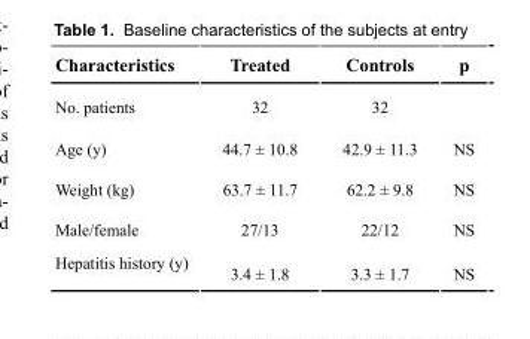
<table><thead><tr><td>Characteristics</td><td>Treated</td><td>Controls</td><td>p</td></tr></thead><tbody><tr><td>No. patients</td><td>32</td><td>32</td><td></td></tr><tr><td>Age (y)</td><td>44.7 ± 10.8</td><td>42.9 ± 11.3</td><td>NS</td></tr><tr><td>Weight (kg)</td><td>63.7 ± 11.7</td><td>62.2 ± 9.8</td><td>NS</td></tr><tr><td>Male/female</td><td>27/13</td><td>22/12</td><td>NS</td></tr><tr><td>Hepatitis history (y)</td><td>3.4 ± 1.8</td><td>3.3 ± 1.7</td><td>NS</td></tr></tbody></table>